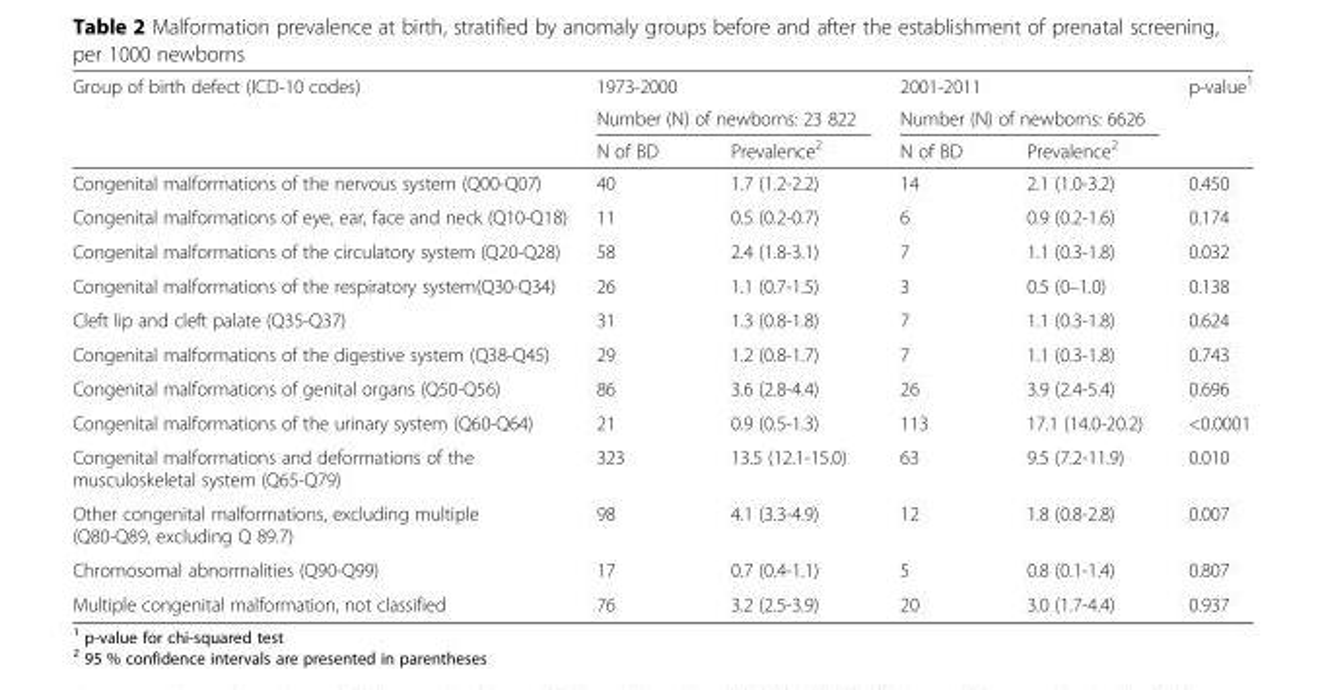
<table><thead><tr><td rowspan="3">Group of birth defect (ICD-10 codes)</td><td>1973-2000</td><td></td><td>2001-2011</td><td></td><td rowspan="3">p-value<sup>1</sup></td></tr><tr><td colspan="2">Number (N) of newborns: 23 822</td><td colspan="2">Number (N) of newborns: 6626</td></tr><tr><td>N of BD</td><td>Prevalence<sup>2</sup></td><td>N of BD</td><td>Prevalence<sup>2</sup></td></tr></thead><tbody><tr><td>Congenital malformations of the nervous system (Q00-Q07)</td><td>40</td><td>1.7 (1.2-2.2)</td><td>14</td><td>2.1 (1.0-3.2)</td><td>0.450</td></tr><tr><td>Congenital malformations of eye, ear, face and neck (Q10-Q18)</td><td>11</td><td>0.5 (0.2-0.7)</td><td>6</td><td>0.9 (0.2-1.6)</td><td>0.174</td></tr><tr><td>Congenital malformations of the circulatory system (Q20-Q28)</td><td>58</td><td>2.4 (1.8-3.1)</td><td>7</td><td>1.1 (0.3-1.8)</td><td>0.032</td></tr><tr><td>Congenital malformations of the respiratory system(Q30-Q34)</td><td>26</td><td>1.1 (0.7-1.5)</td><td>3</td><td>0.5 (0–1.0)</td><td>0.138</td></tr><tr><td>Cleft lip and cleft palate (Q35-Q37)</td><td>31</td><td>1.3 (0.8-1.8)</td><td>7</td><td>1.1 (0.3-1.8)</td><td>0.624</td></tr><tr><td>Congenital malformations of the digestive system (Q38-Q45)</td><td>29</td><td>1.2 (0.8-1.7)</td><td>7</td><td>1.1 (0.3-1.8)</td><td>0.743</td></tr><tr><td>Congenital malformations of genital organs (Q50-Q56)</td><td>86</td><td>3.6 (2.8-4.4)</td><td>26</td><td>3.9 (2.4-5.4)</td><td>0.696</td></tr><tr><td>Congenital malformations of the urinary system (Q60-Q64)</td><td>21</td><td>0.9 (0.5-1.3)</td><td>113</td><td>17.1 (14.0-20.2)</td><td>&lt;0.0001</td></tr><tr><td>Congenital malformations and deformations of the musculoskeletal system (Q65-Q79)</td><td>323</td><td>13.5 (12.1-15.0)</td><td>63</td><td>9.5 (7.2-11.9)</td><td>0.010</td></tr><tr><td>Other congenital malformations, excluding multiple (Q80-Q89, excluding Q 89.7)</td><td>98</td><td>4.1 (3.3-4.9)</td><td>12</td><td>1.8 (0.8-2.8)</td><td>0.007</td></tr><tr><td>Chromosomal abnormalities (Q90-Q99)</td><td>17</td><td>0.7 (0.4-1.1)</td><td>5</td><td>0.8 (0.1-1.4)</td><td>0.807</td></tr><tr><td>Multiple congenital malformation, not classified</td><td>76</td><td>3.2 (2.5-3.9)</td><td>20</td><td>3.0 (1.7-4.4)</td><td>0.937</td></tr></tbody></table>